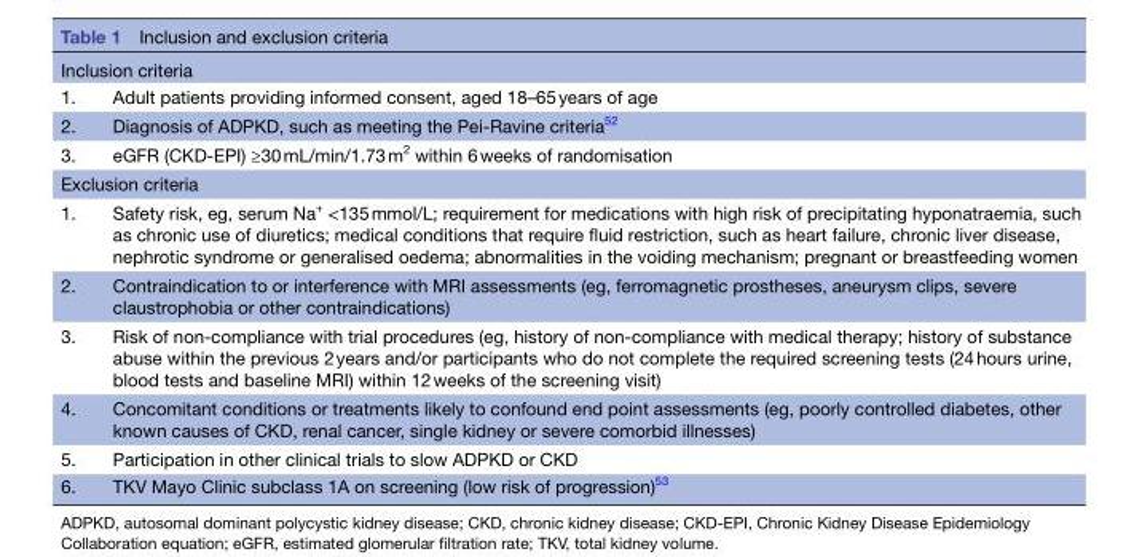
<table><tbody><tr><td colspan="2">Inclusion criteria</td></tr><tr><td>1.</td><td>Adult patients providing informed consent, aged 18–65 years of age</td></tr><tr><td>2.</td><td>Diagnosis of ADPKD, such as meeting the Pei-Ravine criteria<sup>52</sup></td></tr><tr><td>3.</td><td>eGFR (CKD-EPI) ≥30 mL/min/1.73 m<sup>2</sup> within 6 weeks of randomisation</td></tr><tr><td colspan="2">Exclusion criteria</td></tr><tr><td>1.</td><td>Safety risk, eg, serum Na<sup>+</sup> &lt;135 mmol/L; requirement for medications with high risk of precipitating hyponatraemia, such as chronic use of diuretics; medical conditions that require fluid restriction, such as heart failure, chronic liver disease, nephrotic syndrome or generalised oedema; abnormalities in the voiding mechanism; pregnant or breastfeeding women</td></tr><tr><td>2.</td><td>Contraindication to or interference with MRI assessments (eg, ferromagnetic prostheses, aneurysm clips, severe claustrophobia or other contraindications)</td></tr><tr><td>3.</td><td>Risk of non-compliance with trial procedures (eg, history of non-compliance with medical therapy; history of substance abuse within the previous 2 years and/or participants who do not complete the required screening tests (24 hours urine, blood tests and baseline MRI) within 12 weeks of the screening visit)</td></tr><tr><td>4.</td><td>Concomitant conditions or treatments likely to confound end point assessments (eg, poorly controlled diabetes, other known causes of CKD, renal cancer, single kidney or severe comorbid illnesses)</td></tr><tr><td>5.</td><td>Participation in other clinical trials to slow ADPKD or CKD</td></tr><tr><td>6.</td><td>TKV Mayo Clinic subclass 1A on screening (low risk of progression)<sup>53</sup></td></tr></tbody></table>